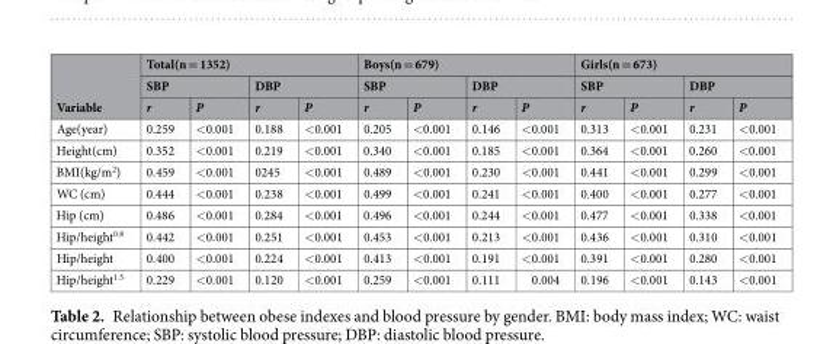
<table><thead><tr><td rowspan="3">Variable</td><td colspan="4">Total(n = 1352)</td><td colspan="4">Boys(n = 679)</td><td colspan="4">Girls(n = 673)</td></tr><tr><td colspan="2">SBP</td><td colspan="2">DBP</td><td colspan="2">SBP</td><td colspan="2">DBP</td><td colspan="2">SBP</td><td colspan="2">DBP</td></tr><tr><td>r</td><td>P</td><td>r</td><td>P</td><td>r</td><td>P</td><td>r</td><td>P</td><td>r</td><td>P</td><td>r</td><td>P</td></tr></thead><tbody><tr><td>Age(year)</td><td>0.259</td><td>&lt;0.001</td><td>0.188</td><td>&lt;0.001</td><td>0.205</td><td>&lt;0.001</td><td>0.146</td><td>&lt;0.001</td><td>0.313</td><td>&lt;0.001</td><td>0.231</td><td>&lt;0.001</td></tr><tr><td>Height(cm)</td><td>0.352</td><td>&lt;0.001</td><td>0.219</td><td>&lt;0.001</td><td>0.340</td><td>&lt;0.001</td><td>0.185</td><td>&lt;0.001</td><td>0.364</td><td>&lt;0.001</td><td>0.260</td><td>&lt;0.001</td></tr><tr><td>BMI(kg/m<sup>2</sup>)</td><td>0.459</td><td>&lt;0.001</td><td>0245</td><td>&lt;0.001</td><td>0.489</td><td>&lt;0.001</td><td>0.230</td><td>&lt;0.001</td><td>0.441</td><td>&lt;0.001</td><td>0.299</td><td>&lt;0.001</td></tr><tr><td>WC (cm)</td><td>0.444</td><td>&lt;0.001</td><td>0.238</td><td>&lt;0.001</td><td>0.499</td><td>&lt;0.001</td><td>0.241</td><td>&lt;0.001</td><td>0.400</td><td>&lt;0.001</td><td>0.277</td><td>&lt;0.001</td></tr><tr><td>Hip (cm)</td><td>0.486</td><td>&lt;0.001</td><td>0.284</td><td>&lt;0.001</td><td>0.496</td><td>&lt;0.001</td><td>0.244</td><td>&lt;0.001</td><td>0.477</td><td>&lt;0.001</td><td>0.338</td><td>&lt;0.001</td></tr><tr><td>Hip/height<sup>0.8</sup></td><td>0.442</td><td>&lt;0.001</td><td>0.251</td><td>&lt;0.001</td><td>0.453</td><td>&lt;0.001</td><td>0.213</td><td>&lt;0.001</td><td>0.436</td><td>&lt;0.001</td><td>0.310</td><td>&lt;0.001</td></tr><tr><td>Hip/height</td><td>0.400</td><td>&lt;0.001</td><td>0.224</td><td>&lt;0.001</td><td>0.413</td><td>&lt;0.001</td><td>0.191</td><td>&lt;0.001</td><td>0.391</td><td>&lt;0.001</td><td>0.280</td><td>&lt;0.001</td></tr><tr><td>Hip/height<sup>1.5</sup></td><td>0.229</td><td>&lt;0.001</td><td>0.120</td><td>&lt;0.001</td><td>0.259</td><td>&lt;0.001</td><td>0.111</td><td>0.004</td><td>0.196</td><td>&lt;0.001</td><td>0.143</td><td>&lt;0.001</td></tr></tbody></table>